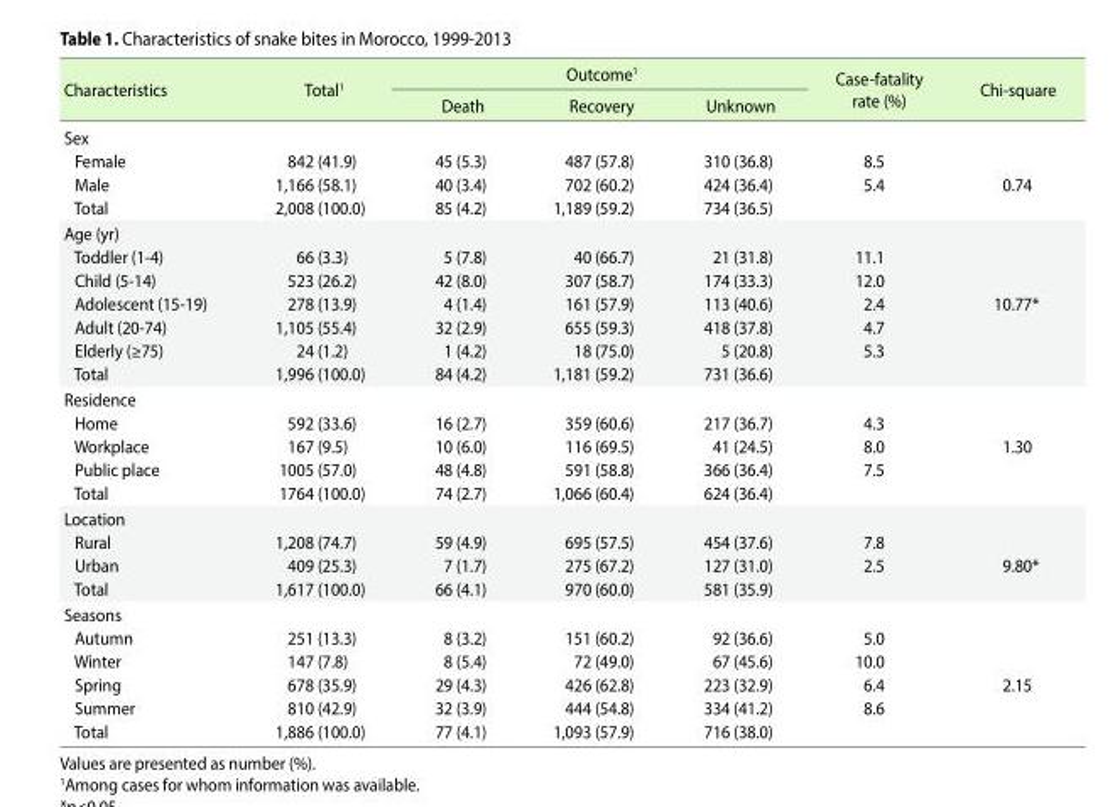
<table><thead><tr><td rowspan="2">Characteristics</td><td rowspan="2">Total<sup>1</sup></td><td colspan="3">Outcome<sup>1</sup></td><td rowspan="2">Case-fatality rate (%)</td><td rowspan="2">Chi-square</td></tr><tr><td>Death</td><td>Recovery</td><td>Unknown</td></tr></thead><tbody><tr><td colspan="7">Sex</td></tr><tr><td>Female</td><td>842 (41.9)</td><td>45 (5.3)</td><td>487 (57.8)</td><td>310 (36.8)</td><td>8.5</td><td></td></tr><tr><td>Male</td><td>1,166 (58.1)</td><td>40 (3.4)</td><td>702 (60.2)</td><td>424 (36.4)</td><td>5.4</td><td>0.74</td></tr><tr><td>Total</td><td>2,008 (100.0)</td><td>85 (4.2)</td><td>1,189 (59.2)</td><td>734 (36.5)</td><td></td><td></td></tr><tr><td colspan="7">Age (yr)</td></tr><tr><td>Toddler (1-4)</td><td>66 (3.3)</td><td>5 (7.8)</td><td>40 (66.7)</td><td>21 (31.8)</td><td>11.1</td><td></td></tr><tr><td>Child (5-14)</td><td>523 (26.2)</td><td>42 (8.0)</td><td>307 (58.7)</td><td>174 (33.3)</td><td>12.0</td><td></td></tr><tr><td>Adolescent (15-19)</td><td>278 (13.9)</td><td>4 (1.4)</td><td>161 (57.9)</td><td>113 (40.6)</td><td>2.4</td><td>10.77*</td></tr><tr><td>Adult (20-74)</td><td>1,105 (55.4)</td><td>32 (2.9)</td><td>655 (59.3)</td><td>418 (37.8)</td><td>4.7</td><td></td></tr><tr><td>Elderly (≥75)</td><td>24 (1.2)</td><td>1 (4.2)</td><td>18 (75.0)</td><td>5 (20.8)</td><td>5.3</td><td></td></tr><tr><td>Total</td><td>1,996 (100.0)</td><td>84 (4.2)</td><td>1,181 (59.2)</td><td>731 (36.6)</td><td></td><td></td></tr><tr><td colspan="7">Residence</td></tr><tr><td>Home</td><td>592 (33.6)</td><td>16 (2.7)</td><td>359 (60.6)</td><td>217 (36.7)</td><td>4.3</td><td></td></tr><tr><td>Workplace</td><td>167 (9.5)</td><td>10 (6.0)</td><td>116 (69.5)</td><td>41 (24.5)</td><td>8.0</td><td>1.30</td></tr><tr><td>Public place</td><td>1005 (57.0)</td><td>48 (4.8)</td><td>591 (58.8)</td><td>366 (36.4)</td><td>7.5</td><td></td></tr><tr><td>Total</td><td>1764 (100.0)</td><td>74 (2.7)</td><td>1,066 (60.4)</td><td>624 (36.4)</td><td></td><td></td></tr><tr><td colspan="7">Location</td></tr><tr><td>Rural</td><td>1,208 (74.7)</td><td>59 (4.9)</td><td>695 (57.5)</td><td>454 (37.6)</td><td>7.8</td><td></td></tr><tr><td>Urban</td><td>409 (25.3)</td><td>7 (1.7)</td><td>275 (67.2)</td><td>127 (31.0)</td><td>2.5</td><td>9.80*</td></tr><tr><td>Total</td><td>1,617 (100.0)</td><td>66 (4.1)</td><td>970 (60.0)</td><td>581 (35.9)</td><td></td><td></td></tr><tr><td colspan="7">Seasons</td></tr><tr><td>Autumn</td><td>251 (13.3)</td><td>8 (3.2)</td><td>151 (60.2)</td><td>92 (36.6)</td><td>5.0</td><td></td></tr><tr><td>Winter</td><td>147 (7.8)</td><td>8 (5.4)</td><td>72 (49.0)</td><td>67 (45.6)</td><td>10.0</td><td></td></tr><tr><td>Spring</td><td>678 (35.9)</td><td>29 (4.3)</td><td>426 (62.8)</td><td>223 (32.9)</td><td>6.4</td><td>2.15</td></tr><tr><td>Summer</td><td>810 (42.9)</td><td>32 (3.9)</td><td>444 (54.8)</td><td>334 (41.2)</td><td>8.6</td><td></td></tr><tr><td>Total</td><td>1,886 (100.0)</td><td>77 (4.1)</td><td>1,093 (57.9)</td><td>716 (38.0)</td><td></td><td></td></tr></tbody></table>